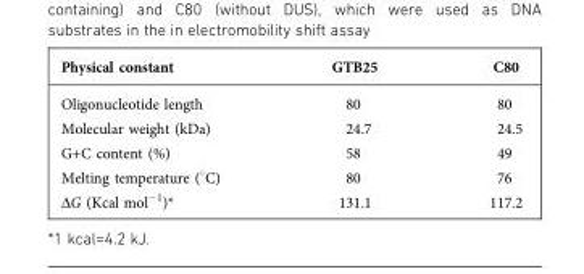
<table><thead><tr><td>Physical constant</td><td>GTB25</td><td>C80</td></tr></thead><tbody><tr><td>Oligonucleotide length</td><td>80</td><td>80</td></tr><tr><td>Molecular weight (kDa)</td><td>24.7</td><td>24.5</td></tr><tr><td>G+C content (%)</td><td>58</td><td>49</td></tr><tr><td>Melting temperature ( °C)</td><td>80</td><td>76</td></tr><tr><td>ΔG (Kcal mol<sup>−1</sup>)*</td><td>131.1</td><td>117.2</td></tr></tbody></table>